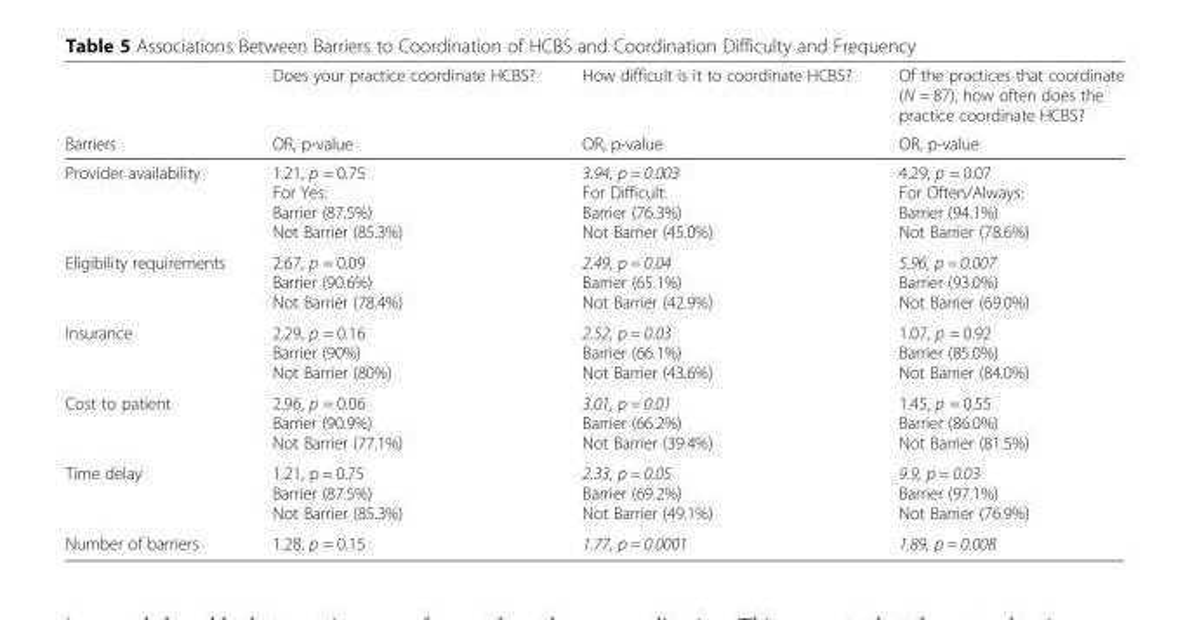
<table><thead><tr><td rowspan="2">Barriers</td><td rowspan="2">Does your practice coordinate HCBS? OR, p-value</td><td rowspan="2">How difficult is it to coordinate HCBS? OR, p-value</td><td rowspan="2">Of the practices that coordinate (N = 87), how often does the practice coordinate HCBS? OR, p-value</td></tr><tr></tr></thead><tbody><tr><td>Provider availability</td><td>1.21, p = 0.75 For Yes: Barrier (87.5%) Not Barrier (85.3%)</td><td>3.94, p = 0.003 For Difficult: Barrier (76.3%) Not Barrier (45.0%)</td><td>4.29, p = 0.07 For Often/Always: Barrier (94.1%) Not Barrier (78.6%)</td></tr><tr><td>Eligibility requirements</td><td>2.67, p = 0.09 Barrier (90.6%) Not Barrier (78.4%)</td><td>2.49, p = 0.04 Barrier (65.1%) Not Barrier (42.9%)</td><td>5.96, p = 0.007 Barrier (93.0%) Not Barrier (69.0%)</td></tr><tr><td>Insurance</td><td>2.29, p = 0.16 Barrier (90%) Not Barrier (80%)</td><td>2.52, p = 0.03 Barrier (66.1%) Not Barrier (43.6%)</td><td>1.07, p = 0.92 Barrier (85.0%) Not Barrier (84.0%)</td></tr><tr><td>Cost to patient</td><td>2.96, p = 0.06 Barrier (90.9%) Not Barrier (77.1%)</td><td>3.01, p = 0.01 Barrier (66.2%) Not Barrier (39.4%)</td><td>1.45, p = 0.55 Barrier (86.0%) Not Barrier (81.5%)</td></tr><tr><td>Time delay</td><td>1.21, p = 0.75 Barrier (87.5%) Not Barrier (85.3%)</td><td>2.33, p = 0.05 Barrier (69.2%) Not Barrier (49.1%)</td><td>9.9, p = 0.03 Barrier (97.1%) Not Barrier (76.9%)</td></tr><tr><td>Number of barriers</td><td>1.28, p = 0.15</td><td>1.77, p = 0.0001</td><td>1.89, p = 0.008</td></tr></tbody></table>